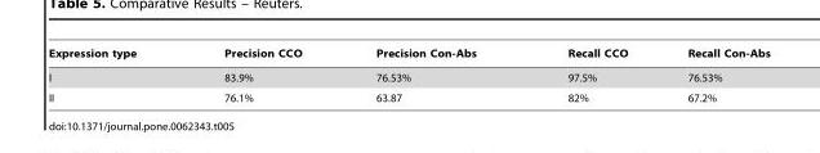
<table><thead><tr><td>Expression type</td><td>Precision CCO</td><td>Precision Con-Abs</td><td>Recall CCO</td><td>Recall Con-Abs</td></tr></thead><tbody><tr><td>I</td><td>83.9%</td><td>76.53%</td><td>97.5%</td><td>76.53%</td></tr><tr><td>II</td><td>76.1%</td><td>63.87</td><td>82%</td><td>67.2%</td></tr></tbody></table>